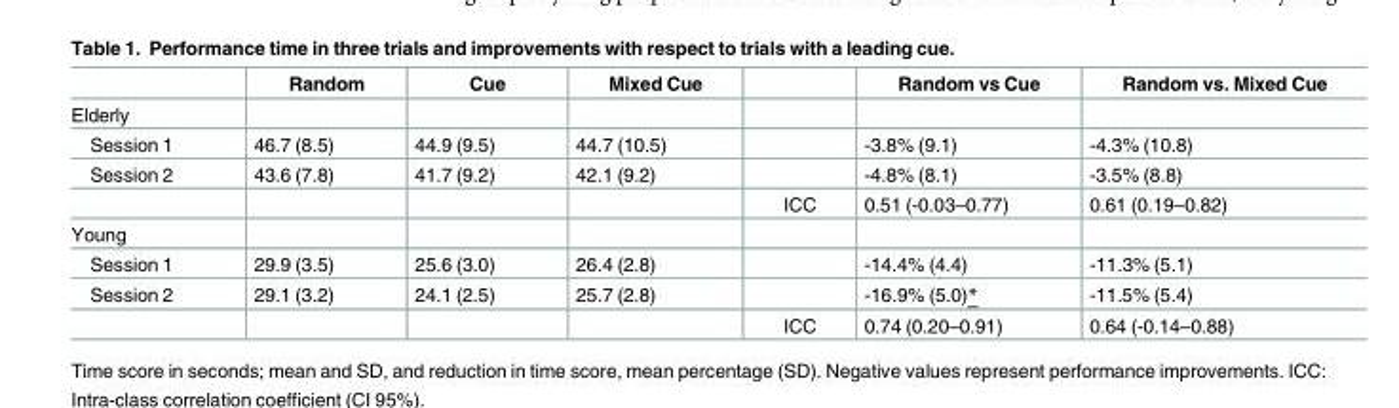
<table><thead><tr><td></td><td>Random</td><td>Cue</td><td>Mixed Cue</td><td></td><td>Random vs Cue</td><td>Random vs. Mixed Cue</td></tr></thead><tbody><tr><td colspan="7">Elderly</td></tr><tr><td>Session 1</td><td>46.7 (8.5)</td><td>44.9 (9.5)</td><td>44.7 (10.5)</td><td></td><td>-3.8% (9.1)</td><td>-4.3% (10.8)</td></tr><tr><td rowspan="2">Session 2</td><td>43.6 (7.8)</td><td>41.7 (9.2)</td><td>42.1 (9.2)</td><td></td><td>-4.8% (8.1)</td><td>-3.5% (8.8)</td></tr><tr><td></td><td></td><td></td><td>ICC</td><td>0.51 (-0.03–0.77)</td><td>0.61 (0.19–0.82)</td></tr><tr><td colspan="7">Young</td></tr><tr><td>Session 1</td><td>29.9 (3.5)</td><td>25.6 (3.0)</td><td>26.4 (2.8)</td><td></td><td>-14.4% (4.4)</td><td>-11.3% (5.1)</td></tr><tr><td rowspan="2">Session 2</td><td>29.1 (3.2)</td><td>24.1 (2.5)</td><td>25.7 (2.8)</td><td></td><td>-16.9% (5.0)*</td><td>-11.5% (5.4)</td></tr><tr><td></td><td></td><td></td><td>ICC</td><td>0.74 (0.20–0.91)</td><td>0.64 (-0.14–0.88)</td></tr></tbody></table>